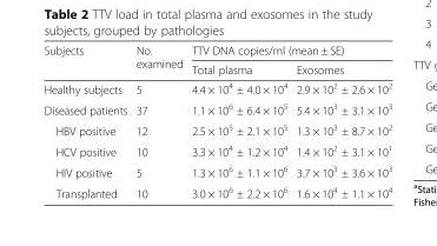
<table><thead><tr><td rowspan="2">Subjects</td><td rowspan="2">No. examined</td><td colspan="2">TTV DNA copies/ml (mean ± SE)</td></tr><tr><td>Total plasma</td><td>Exosomes</td></tr></thead><tbody><tr><td>Healthy subjects</td><td>5</td><td>4.4 × 10<sup>4</sup> ± 4.0 × 10<sup>4</sup></td><td>2.9 × 10<sup>2</sup> ± 2.6 × 10<sup>2</sup></td></tr><tr><td>Diseased patients</td><td>37</td><td>1.1 × 10<sup>6</sup> ± 6.4 × 10<sup>5</sup></td><td>5.4 × 10<sup>3</sup> ± 3.1 × 10<sup>3</sup></td></tr><tr><td>HBV positive</td><td>12</td><td>2.5 × 10<sup>5</sup> ± 2.1 × 10<sup>5</sup></td><td>1.3 × 10<sup>3</sup> ± 8.7 × 10<sup>2</sup></td></tr><tr><td>HCV positive</td><td>10</td><td>3.3 × 10<sup>4</sup> ± 1.2 × 10<sup>4</sup></td><td>1.4 × 10<sup>2</sup> ± 3.1 × 10<sup>1</sup></td></tr><tr><td>HIV positive</td><td>5</td><td>1.3 × 10<sup>6</sup> ± 1.1 × 10<sup>6</sup></td><td>3.7 × 10<sup>3</sup> ± 3.6 × 10<sup>3</sup></td></tr><tr><td>Transplanted</td><td>10</td><td>3.0 × 10<sup>6</sup> ± 2.2 × 10<sup>6</sup></td><td>1.6 × 10<sup>4</sup> ± 1.1 × 10<sup>4</sup></td></tr></tbody></table>